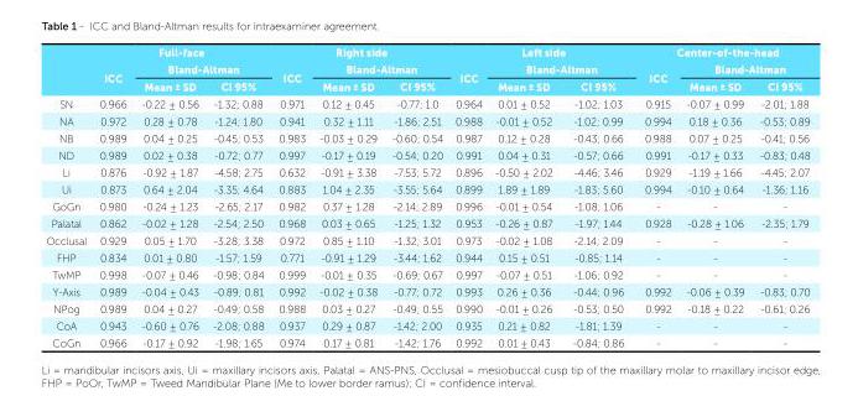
<table><thead><tr><td rowspan="3"></td><td colspan="3">Full-face</td><td colspan="3">Right side</td><td colspan="3">Left side</td><td colspan="3">Center-of-the-head</td></tr><tr><td rowspan="2">ICC</td><td colspan="2">Bland-Altman</td><td rowspan="2">ICC</td><td colspan="2">Bland-Altman</td><td rowspan="2">ICC</td><td colspan="2">Bland-Altman</td><td rowspan="2">ICC</td><td colspan="2">Bland-Altman</td></tr><tr><td>Mean ± SD</td><td>CI 95%</td><td>Mean ± SD</td><td>CI 95%</td><td>Mean ± SD</td><td>CI 95%</td><td>Mean ± SD</td><td>CI 95%</td></tr></thead><tbody><tr><td>SN</td><td>0.966</td><td>-0.22 ± 0.56</td><td>-1.32; 0.88</td><td>0.971</td><td>0.12 ± 0.45</td><td>-0.77; 1.0</td><td>0.964</td><td>0.01 ± 0.52</td><td>-1.02; 1.03</td><td>0.915</td><td>-0.07 ± 0.99</td><td>-2.01; 1.88</td></tr><tr><td>NA</td><td>0.972</td><td>0.28 ± 0.78</td><td>-1.24; 1.80</td><td>0.941</td><td>0.32 ± 1.11</td><td>-1.86; 2.51</td><td>0.988</td><td>-0.01 ± 0.52</td><td>-1.02; 0.99</td><td>0.994</td><td>0.18 ± 0.36</td><td>-0.53; 0.89</td></tr><tr><td>NB</td><td>0.989</td><td>0.04 ± 0.25</td><td>-0.45; 0.53</td><td>0.983</td><td>-0.03 ± 0.29</td><td>-0.60; 0.54</td><td>0.987</td><td>0.12 ± 0.28</td><td>-0.43; 0.66</td><td>0.988</td><td>0.07 ± 0.25</td><td>-0.41; 0.56</td></tr><tr><td>ND</td><td>0.989</td><td>0.02 ± 0.38</td><td>-0.72; 0.77</td><td>0.997</td><td>-0.17 ± 0.19</td><td>-0.54; 0.20</td><td>0.991</td><td>0.04 ± 0.31</td><td>-0.57; 0.66</td><td>0.991</td><td>-0.17 ± 0.33</td><td>-0.83; 0.48</td></tr><tr><td>Li</td><td>0.876</td><td>-0.92 ± 1.87</td><td>-4.58; 2.75</td><td>0.632</td><td>-0.91 ± 3.38</td><td>-7.53; 5.72</td><td>0.896</td><td>-0.50 ± 2.02</td><td>-4.46; 3.46</td><td>0.929</td><td>-1.19 ± 1.66</td><td>-4.45; 2.07</td></tr><tr><td>Ui</td><td>0.873</td><td>0.64 ± 2.04</td><td>-3.35; 4.64</td><td>0.883</td><td>1.04 ± 2.35</td><td>-3.55; 5.64</td><td>0.899</td><td>1.89 ± 1.89</td><td>-1.83; 5.60</td><td>0.994</td><td>-0.10 ± 0.64</td><td>-1.36; 1.16</td></tr><tr><td>GoGn</td><td>0.980</td><td>-0.24 ± 1.23</td><td>-2.65; 2.17</td><td>0.982</td><td>0.37 ± 1.28</td><td>-2.14; 2.89</td><td>0.996</td><td>-0.01 ± 0.54</td><td>-1.08; 1.06</td><td>-</td><td>-</td><td>-</td></tr><tr><td>Palatal</td><td>0.862</td><td>-0.02 ± 1.28</td><td>-2.54; 2.50</td><td>0.968</td><td>0.03 ± 0.65</td><td>-1.25; 1.32</td><td>0.953</td><td>-0.26 ± 0.87</td><td>-1.97; 1.44</td><td>0.928</td><td>-0.28 ± 1.06</td><td>-2.35; 1.79</td></tr><tr><td>Occlusal</td><td>0.929</td><td>0.05 ± 1.70</td><td>-3.28; 3.38</td><td>0.972</td><td>0.85 ± 1.10</td><td>-1.32; 3.01</td><td>0.973</td><td>-0.02 ± 1.08</td><td>-2.14; 2.09</td><td>-</td><td>-</td><td>-</td></tr><tr><td>FHP</td><td>0.834</td><td>0.01 ± 0.80</td><td>-1.57; 1.59</td><td>0.771</td><td>-0.91 ± 1.29</td><td>-3.44; 1.62</td><td>0.944</td><td>0.15 ± 0.51</td><td>-0.85; 1.14</td><td>-</td><td>-</td><td>-</td></tr><tr><td>TwMP</td><td>0.998</td><td>-0.07 ± 0.46</td><td>-0.98; 0.84</td><td>0.999</td><td>-0.01 ± 0.35</td><td>-0.69; 0.67</td><td>0.997</td><td>-0.07 ± 0.51</td><td>-1.06; 0.92</td><td>-</td><td>-</td><td>-</td></tr><tr><td>Y-Axis</td><td>0.989</td><td>-0.04 ± 0.43</td><td>-0.89; 0.81</td><td>0.992</td><td>-0.02 ± 0.38</td><td>-0.77; 0.72</td><td>0.993</td><td>0.26 ± 0.36</td><td>-0.44; 0.96</td><td>0.992</td><td>-0.06 ± 0.39</td><td>-0.83; 0.70</td></tr><tr><td>NPog</td><td>0.989</td><td>0.04 ± 0.27</td><td>-0.49; 0.58</td><td>0.988</td><td>0.03 ± 0.27</td><td>-0.49; 0.55</td><td>0.990</td><td>-0.01 ± 0.26</td><td>-0.53; 0.50</td><td>0.992</td><td>-0.18 ± 0.22</td><td>-0.61; 0.26</td></tr><tr><td>CoA</td><td>0.943</td><td>-0.60 ± 0.76</td><td>-2.08; 0.88</td><td>0.937</td><td>0.29 ± 0.87</td><td>-1.42; 2.00</td><td>0.935</td><td>0.21 ± 0.82</td><td>-1.81; 1.39</td><td>-</td><td>-</td><td>-</td></tr><tr><td>CoGn</td><td>0.966</td><td>-0.17 ± 0.92</td><td>-1.98; 1.65</td><td>0.974</td><td>0.17 ± 0.81</td><td>-1.42; 1.76</td><td>0.992</td><td>0.01 ± 0.43</td><td>-0.84; 0.86</td><td>-</td><td>-</td><td>-</td></tr></tbody></table>